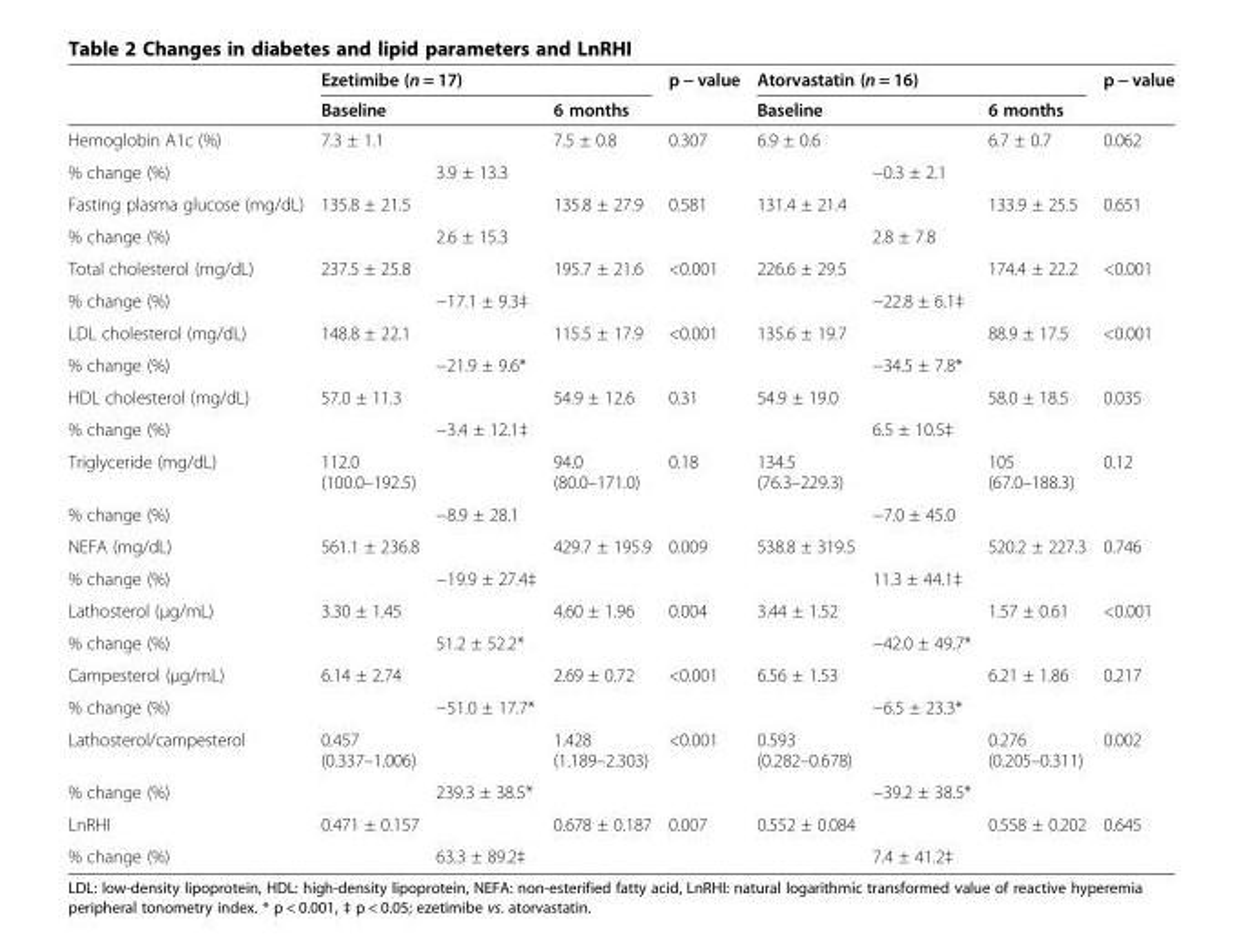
<table><thead><tr><td rowspan="2"></td><td colspan="3">Ezetimibe (n = 17)</td><td rowspan="2">p − value</td><td colspan="3">Atorvastatin (n = 16)</td><td rowspan="2">p − value</td></tr><tr><td>Baseline</td><td></td><td>6 months</td><td>Baseline</td><td></td><td>6 months</td></tr></thead><tbody><tr><td>Hemoglobin A1c (%)</td><td>7.3 ± 1.1</td><td></td><td>7.5 ± 0.8</td><td>0.307</td><td>6.9 ± 0.6</td><td></td><td>6.7 ± 0.7</td><td>0.062</td></tr><tr><td>% change (%)</td><td></td><td>3.9 ± 13.3</td><td></td><td></td><td></td><td>−0.3 ± 2.1</td><td></td><td></td></tr><tr><td>Fasting plasma glucose (mg/dL)</td><td>135.8 ± 21.5</td><td></td><td>135.8 ± 27.9</td><td>0.581</td><td>131.4 ± 21.4</td><td></td><td>133.9 ± 25.5</td><td>0.651</td></tr><tr><td>% change (%)</td><td></td><td>2.6 ± 15.3</td><td></td><td></td><td></td><td>2.8 ± 7.8</td><td></td><td></td></tr><tr><td>Total cholesterol (mg/dL)</td><td>237.5 ± 25.8</td><td></td><td>195.7 ± 21.6</td><td>&lt;0.001</td><td>226.6 ± 29.5</td><td></td><td>174.4 ± 22.2</td><td>&lt;0.001</td></tr><tr><td>% change (%)</td><td></td><td>−17.1 ± 9.3‡</td><td></td><td></td><td></td><td>−22.8 ± 6.1‡</td><td></td><td></td></tr><tr><td>LDL cholesterol (mg/dL)</td><td>148.8 ± 22.1</td><td></td><td>115.5 ± 17.9</td><td>&lt;0.001</td><td>135.6 ± 19.7</td><td></td><td>88.9 ± 17.5</td><td>&lt;0.001</td></tr><tr><td>% change (%)</td><td></td><td>−21.9 ± 9.6*</td><td></td><td></td><td></td><td>−34.5 ± 7.8*</td><td></td><td></td></tr><tr><td>HDL cholesterol (mg/dL)</td><td>57.0 ± 11.3</td><td></td><td>54.9 ± 12.6</td><td>0.31</td><td>54.9 ± 19.0</td><td></td><td>58.0 ± 18.5</td><td>0.035</td></tr><tr><td>% change (%)</td><td></td><td>−3.4 ± 12.1‡</td><td></td><td></td><td></td><td>6.5 ± 10.5‡</td><td></td><td></td></tr><tr><td>Triglyceride (mg/dL)</td><td>112.0 (100.0–192.5)</td><td></td><td>94.0 (80.0–171.0)</td><td>0.18</td><td>134.5 (76.3–229.3)</td><td></td><td>105 (67.0–188.3)</td><td>0.12</td></tr><tr><td>% change (%)</td><td></td><td>−8.9 ± 28.1</td><td></td><td></td><td></td><td>−7.0 ± 45.0</td><td></td><td></td></tr><tr><td>NEFA (mg/dL)</td><td>561.1 ± 236.8</td><td></td><td>429.7 ± 195.9</td><td>0.009</td><td>538.8 ± 319.5</td><td></td><td>520.2 ± 227.3</td><td>0.746</td></tr><tr><td>% change (%)</td><td></td><td>−19.9 ± 27.4‡</td><td></td><td></td><td></td><td>11.3 ± 44.1‡</td><td></td><td></td></tr><tr><td>Lathosterol (μg/mL)</td><td>3.30 ± 1.45</td><td></td><td>4.60 ± 1.96</td><td>0.004</td><td>3.44 ± 1.52</td><td></td><td>1.57 ± 0.61</td><td>&lt;0.001</td></tr><tr><td>% change (%)</td><td></td><td>51.2 ± 52.2*</td><td></td><td></td><td></td><td>−42.0 ± 49.7*</td><td></td><td></td></tr><tr><td>Campesterol (μg/mL)</td><td>6.14 ± 2.74</td><td></td><td>2.69 ± 0.72</td><td>&lt;0.001</td><td>6.56 ± 1.53</td><td></td><td>6.21 ± 1.86</td><td>0.217</td></tr><tr><td>% change (%)</td><td></td><td>−51.0 ± 17.7*</td><td></td><td></td><td></td><td>−6.5 ± 23.3*</td><td></td><td></td></tr><tr><td>Lathosterol/campesterol</td><td>0.457 (0.337–1.006)</td><td></td><td>1.428 (1.189–2.303)</td><td>&lt;0.001</td><td>0.593 (0.282–0.678)</td><td></td><td>0.276 (0.205–0.311)</td><td>0.002</td></tr><tr><td>% change (%)</td><td></td><td>239.3 ± 38.5*</td><td></td><td></td><td></td><td>−39.2 ± 38.5*</td><td></td><td></td></tr><tr><td>LnRHI</td><td>0.471 ± 0.157</td><td></td><td>0.678 ± 0.187</td><td>0.007</td><td>0.552 ± 0.084</td><td></td><td>0.558 ± 0.202</td><td>0.645</td></tr><tr><td>% change (%)</td><td></td><td>63.3 ± 89.2‡</td><td></td><td></td><td></td><td>7.4 ± 41.2‡</td><td></td><td></td></tr></tbody></table>